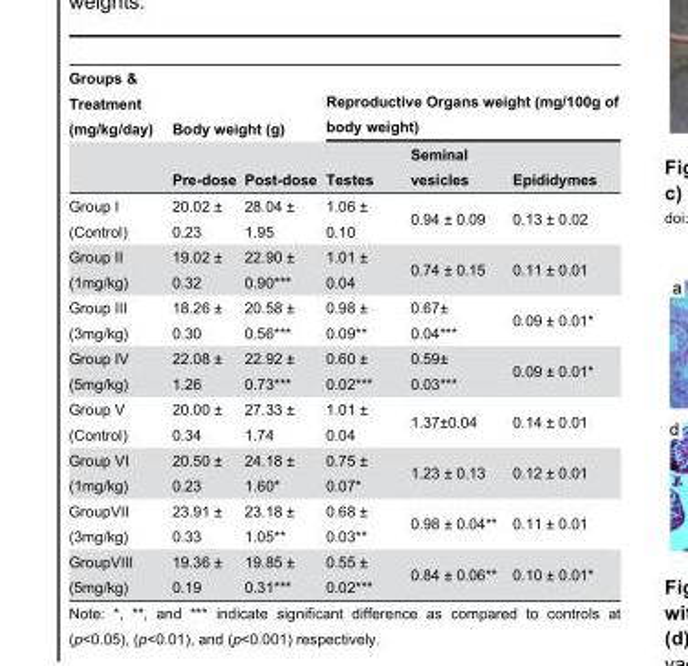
<table><thead><tr><td rowspan="2">Groups &amp; Treatment (mg/kg/day)</td><td colspan="2">Body weight (g)</td><td colspan="3">Reproductive Organs weight (mg/100g of body weight)</td></tr><tr><td>Pre-dose</td><td>Post-dose</td><td>Testes</td><td>Seminal vesicles</td><td>Epididymes</td></tr></thead><tbody><tr><td>Group I (Control)</td><td>20.02 ± 0.23</td><td>28.04 ± 1.95</td><td>1.06 ± 0.10</td><td>0.94 ± 0.09</td><td>0.13 ± 0.02</td></tr><tr><td>Group II (1mg/kg)</td><td>19.02 ± 0.32</td><td>22.90 ± 0.90***</td><td>1.01 ± 0.04</td><td>0.74 ± 0.15</td><td>0.11 ± 0.01</td></tr><tr><td>Group III (3mg/kg)</td><td>18.26 ± 0.30</td><td>20.58 ± 0.56***</td><td>0.98 ± 0.09**</td><td>0.67± 0.04***</td><td>0.09 ± 0.01*</td></tr><tr><td>Group IV (5mg/kg)</td><td>22.08 ± 1.26</td><td>22.92 ± 0.73***</td><td>0.60 ± 0.02***</td><td>0.59± 0.03***</td><td>0.09 ± 0.01*</td></tr><tr><td>Group V (Control)</td><td>20.00 ± 0.34</td><td>27.33 ± 1.74</td><td>1.01 ± 0.04</td><td>1.37±0.04</td><td>0.14 ± 0.01</td></tr><tr><td>Group VI (1mg/kg)</td><td>20.50 ± 0.23</td><td>24.18 ± 1.60*</td><td>0.75 ± 0.07*</td><td>1.23 ± 0.13</td><td>0.12 ± 0.01</td></tr><tr><td>GroupVII (3mg/kg)</td><td>23.91 ± 0.33</td><td>23.18 ± 1.05**</td><td>0.68 ± 0.03**</td><td>0.98 ± 0.04**</td><td>0.11 ± 0.01</td></tr><tr><td>GroupVIII (5mg/kg)</td><td>19.36 ± 0.19</td><td>19.85 ± 0.31***</td><td>0.55 ± 0.02***</td><td>0.84 ± 0.06**</td><td>0.10 ± 0.01*</td></tr></tbody></table>